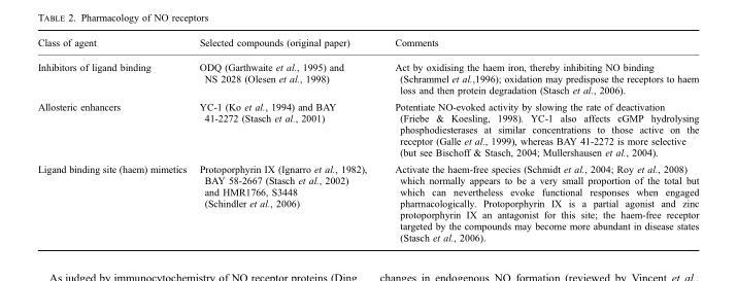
<table><thead><tr><td>Class of agent</td><td>Selected compounds (original paper)</td><td>Comments</td></tr></thead><tbody><tr><td>Inhibitors of ligand binding</td><td>ODQ (Garthwaite et al., 1995) and NS 2028 (Olesen et al., 1998)</td><td>Act by oxidising the haem iron, thereby inhibiting NO binding (Schrammel et al.,1996); oxidation may predispose the receptors to haem loss and then protein degradation (Stasch et al., 2006).</td></tr><tr><td>Allosteric enhancers</td><td>YC-1 (Ko et al., 1994) and BAY 41-2272 (Stasch et al., 2001)</td><td>Potentiate NO-evoked activity by slowing the rate of deactivation (Friebe &amp; Koesling, 1998). YC-1 also affects cGMP hydrolysing phosphodiesterases at similar concentrations to those active on the receptor (Galle et al., 1999), whereas BAY 41-2272 is more selective (but see Bischoff &amp; Stasch, 2004; Mullershausen et al., 2004).</td></tr><tr><td>Ligand binding site (haem) mimetics</td><td>Protoporphyrin IX (Ignarro et al., 1982), BAY 58-2667 (Stasch et al., 2002) and HMR1766, S3448 (Schindler et al., 2006)</td><td>Activate the haem-free species (Schmidt et al., 2004; Roy et al., 2008) which normally appears to be a very small proportion of the total but which can nevertheless evoke functional responses when engaged pharmacologically. Protoporphyrin IX is a partial agonist and zinc protoporphyrin IX an antagonist for this site; the haem-free receptor targeted by the compounds may become more abundant in disease states (Stasch et al., 2006).</td></tr></tbody></table>